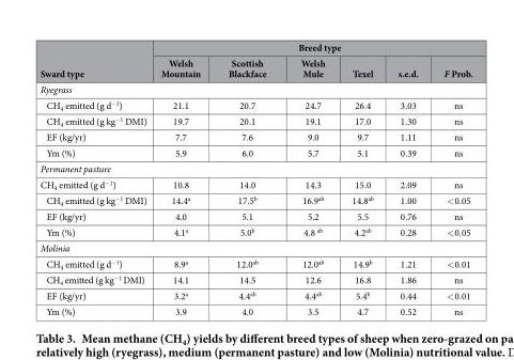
<table><thead><tr><td rowspan="2">Sward type</td><td colspan="6">Breed type</td></tr><tr><td>Welsh Mountain</td><td>Scottish Blackface</td><td>Welsh Mule</td><td>Texel</td><td>s.e.d.</td><td>F Prob.</td></tr></thead><tbody><tr><td colspan="7">Ryegrass</td></tr><tr><td>CH<sub>4</sub> emitted (g d<sup>−1</sup>)</td><td>21.1</td><td>20.7</td><td>24.7</td><td>26.4</td><td>3.03</td><td>ns</td></tr><tr><td>CH<sub>4</sub> emitted (g kg<sup>−1</sup> DMI)</td><td>19.7</td><td>20.1</td><td>19.1</td><td>17.0</td><td>1.30</td><td>ns</td></tr><tr><td>EF (kg/yr)</td><td>7.7</td><td>7.6</td><td>9.0</td><td>9.7</td><td>1.11</td><td>ns</td></tr><tr><td>Ym (%)</td><td>5.9</td><td>6.0</td><td>5.7</td><td>5.1</td><td>0.39</td><td>ns</td></tr><tr><td colspan="7">Permanent pasture</td></tr><tr><td>CH<sub>4</sub> emitted (g d<sup>−1</sup>)</td><td>10.8</td><td>14.0</td><td>14.3</td><td>15.0</td><td>2.09</td><td>ns</td></tr><tr><td>CH<sub>4</sub> emitted (g kg<sup>−1</sup> DMI)</td><td>14.4<sup>a</sup></td><td>17.5<sup>b</sup></td><td>16.9<sup>ab</sup></td><td>14.8<sup>ab</sup></td><td>1.00</td><td>&lt; 0.05</td></tr><tr><td>EF (kg/yr)</td><td>4.0</td><td>5.1</td><td>5.2</td><td>5.5</td><td>0.76</td><td>ns</td></tr><tr><td>Ym (%)</td><td>4.1<sup>a</sup></td><td>5.0<sup>b</sup></td><td>4.8 <sup>ab</sup></td><td>4.2<sup>ab</sup></td><td>0.28</td><td>&lt; 0.05</td></tr><tr><td colspan="7">Molinia</td></tr><tr><td>CH<sub>4</sub> emitted (g d<sup>−1</sup>)</td><td>8.9<sup>a</sup></td><td>12.0<sup>ab</sup></td><td>12.0<sup>ab</sup></td><td>14.9<sup>b</sup></td><td>1.21</td><td>&lt; 0.01</td></tr><tr><td>CH<sub>4</sub> emitted (g kg<sup>−1</sup> DMI)</td><td>14.1</td><td>14.5</td><td>12.6</td><td>16.8</td><td>1.86</td><td>ns</td></tr><tr><td>EF (kg/yr)</td><td>3.2<sup>a</sup></td><td>4.4<sup>ab</sup></td><td>4.4<sup>ab</sup></td><td>5.4<sup>b</sup></td><td>0.44</td><td>&lt; 0.01</td></tr><tr><td>Ym (%)</td><td>3.9</td><td>4.0</td><td>3.5</td><td>4.7</td><td>0.52</td><td>ns</td></tr></tbody></table>